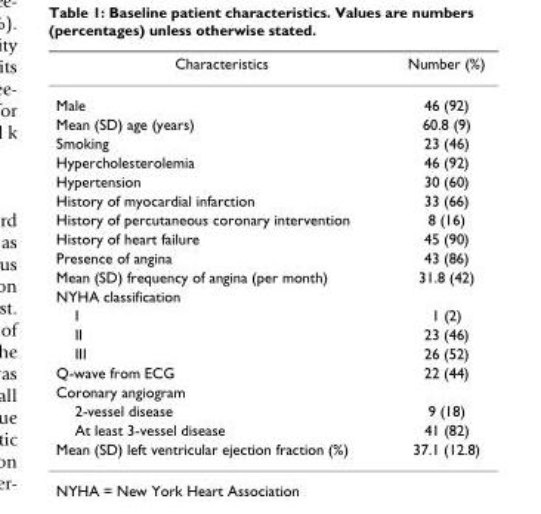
<table><thead><tr><td>Characteristics</td><td>Number (%)</td></tr></thead><tbody><tr><td>Male</td><td>46 (92)</td></tr><tr><td>Mean (SD) age (years)</td><td>60.8 (9)</td></tr><tr><td>Smoking</td><td>23 (46)</td></tr><tr><td>Hypercholesterolemia</td><td>46 (92)</td></tr><tr><td>Hypertension</td><td>30 (60)</td></tr><tr><td>History of myocardial infarction</td><td>33 (66)</td></tr><tr><td>History of percutaneous coronary intervention</td><td>8 (16)</td></tr><tr><td>History of heart failure</td><td>45 (90)</td></tr><tr><td>Presence of angina</td><td>43 (86)</td></tr><tr><td>Mean (SD) frequency of angina (per month)</td><td>31.8 (42)</td></tr><tr><td colspan="2">NYHA classification</td></tr><tr><td>I</td><td>1 (2)</td></tr><tr><td>II</td><td>23 (46)</td></tr><tr><td>III</td><td>26 (52)</td></tr><tr><td>Q-wave from ECG</td><td>22 (44)</td></tr><tr><td colspan="2">Coronary angiogram</td></tr><tr><td>2-vessel disease</td><td>9 (18)</td></tr><tr><td>At least 3-vessel disease</td><td>41 (82)</td></tr><tr><td>Mean (SD) left ventricular ejection fraction (%)</td><td>37.1 (12.8)</td></tr></tbody></table>